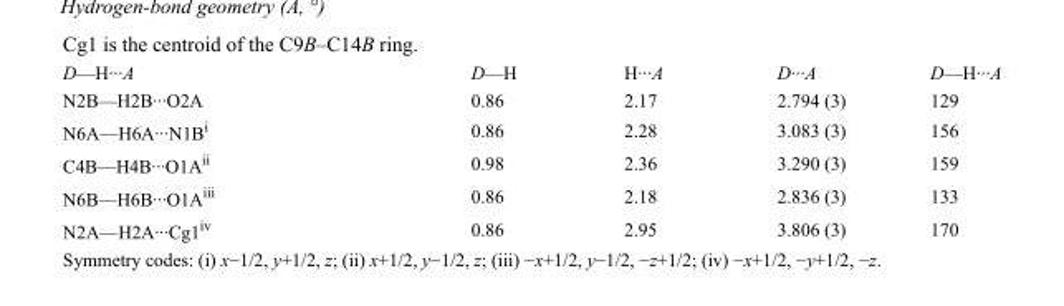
<table><tbody><tr><td>D—H···A</td><td>D—H</td><td>H···A</td><td>D···A</td><td>D—H···A</td></tr><tr><td>N2B—H2B···O2A</td><td>0.86</td><td>2.17</td><td>2.794 (3)</td><td>129</td></tr><tr><td>N6A—H6A···N1B<sup>i</sup></td><td>0.86</td><td>2.28</td><td>3.083 (3)</td><td>156</td></tr><tr><td>C4B—H4B···O1A<sup>ii</sup></td><td>0.98</td><td>2.36</td><td>3.290 (3)</td><td>159</td></tr><tr><td>N6B—H6B···O1A<sup>iii</sup></td><td>0.86</td><td>2.18</td><td>2.836 (3)</td><td>133</td></tr><tr><td>N2A—H2A···Cg1<sup>iv</sup></td><td>0.86</td><td>2.95</td><td>3.806 (3)</td><td>170</td></tr></tbody></table>